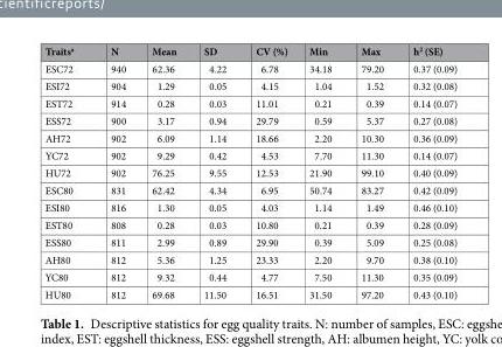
<table><thead><tr><td>Traits<sup>a</sup></td><td>N</td><td>Mean</td><td>SD</td><td>CV (%)</td><td>Min</td><td>Max</td><td>h<sup>2</sup> (SE)</td></tr></thead><tbody><tr><td>ESC72</td><td>940</td><td>62.36</td><td>4.22</td><td>6.78</td><td>34.18</td><td>79.20</td><td>0.37 (0.09)</td></tr><tr><td>ESI72</td><td>904</td><td>1.29</td><td>0.05</td><td>4.15</td><td>1.04</td><td>1.52</td><td>0.32 (0.08)</td></tr><tr><td>EST72</td><td>914</td><td>0.28</td><td>0.03</td><td>11.01</td><td>0.21</td><td>0.39</td><td>0.14 (0.07)</td></tr><tr><td>ESS72</td><td>900</td><td>3.17</td><td>0.94</td><td>29.79</td><td>0.59</td><td>5.37</td><td>0.27 (0.08)</td></tr><tr><td>AH72</td><td>902</td><td>6.09</td><td>1.14</td><td>18.66</td><td>2.20</td><td>10.30</td><td>0.36 (0.09)</td></tr><tr><td>YC72</td><td>902</td><td>9.29</td><td>0.42</td><td>4.53</td><td>7.70</td><td>11.30</td><td>0.14 (0.07)</td></tr><tr><td>HU72</td><td>902</td><td>76.25</td><td>9.55</td><td>12.53</td><td>21.90</td><td>99.10</td><td>0.40 (0.09)</td></tr><tr><td>ESC80</td><td>831</td><td>62.42</td><td>4.34</td><td>6.95</td><td>50.74</td><td>83.27</td><td>0.42 (0.09)</td></tr><tr><td>ESI80</td><td>816</td><td>1.30</td><td>0.05</td><td>4.03</td><td>1.14</td><td>1.49</td><td>0.46 (0.10)</td></tr><tr><td>EST80</td><td>808</td><td>0.28</td><td>0.03</td><td>10.80</td><td>0.21</td><td>0.39</td><td>0.28 (0.09)</td></tr><tr><td>ESS80</td><td>811</td><td>2.99</td><td>0.89</td><td>29.90</td><td>0.39</td><td>5.09</td><td>0.25 (0.08)</td></tr><tr><td>AH80</td><td>812</td><td>5.36</td><td>1.25</td><td>23.33</td><td>2.20</td><td>9.70</td><td>0.38 (0.10)</td></tr><tr><td>YC80</td><td>812</td><td>9.32</td><td>0.44</td><td>4.77</td><td>7.50</td><td>11.30</td><td>0.35 (0.09)</td></tr><tr><td>HU80</td><td>812</td><td>69.68</td><td>11.50</td><td>16.51</td><td>31.50</td><td>97.20</td><td>0.43 (0.10)</td></tr></tbody></table>